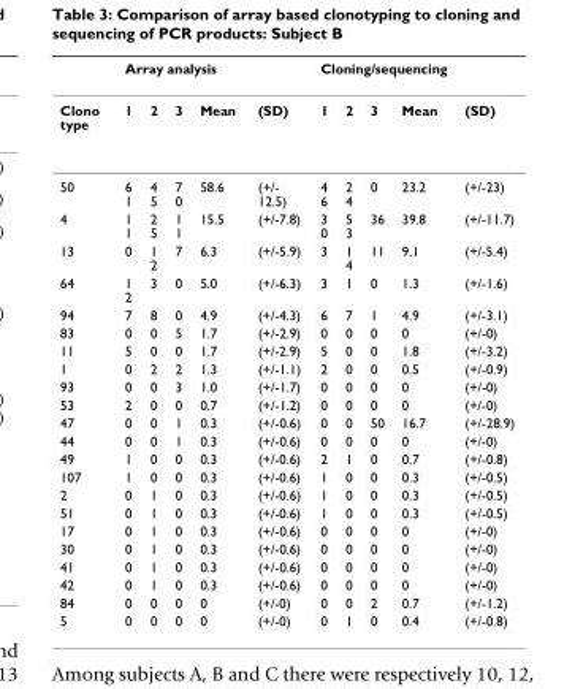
<table><thead><tr><td rowspan="2">Clono type</td><td colspan="5">Array analysis</td><td colspan="5">Cloning/sequencing</td></tr><tr><td>1</td><td>2</td><td>3</td><td>Mean</td><td>(SD)</td><td>1</td><td>2</td><td>3</td><td>Mean</td><td>(SD)</td></tr></thead><tbody><tr><td>50</td><td>6 1</td><td>4 5</td><td>7 0</td><td>58.6</td><td>(+/- 12.5)</td><td>4 6</td><td>2 4</td><td>0</td><td>23.2</td><td>(+/-23)</td></tr><tr><td>4</td><td>1 1</td><td>2 5</td><td>1 1</td><td>15.5</td><td>(+/-7.8)</td><td>3 0</td><td>5 3</td><td>36</td><td>39.8</td><td>(+/-11.7)</td></tr><tr><td>13</td><td>0</td><td>1 2</td><td>7</td><td>6.3</td><td>(+/-5.9)</td><td>3</td><td>1 4</td><td>11</td><td>9.1</td><td>(+/-5.4)</td></tr><tr><td>64</td><td>1 2</td><td>3</td><td>0</td><td>5.0</td><td>(+/-6.3)</td><td>3</td><td>1</td><td>0</td><td>1.3</td><td>(+/-1.6)</td></tr><tr><td>94</td><td>7</td><td>8</td><td>0</td><td>4.9</td><td>(+/-4.3)</td><td>6</td><td>7</td><td>1</td><td>4.9</td><td>(+/-3.1)</td></tr><tr><td>83</td><td>0</td><td>0</td><td>5</td><td>1.7</td><td>(+/-2.9)</td><td>0</td><td>0</td><td>0</td><td>0</td><td>(+/-0)</td></tr><tr><td>11</td><td>5</td><td>0</td><td>0</td><td>1.7</td><td>(+/-2.9)</td><td>5</td><td>0</td><td>0</td><td>1.8</td><td>(+/-3.2)</td></tr><tr><td>1</td><td>0</td><td>2</td><td>2</td><td>1.3</td><td>(+/-1.1)</td><td>2</td><td>0</td><td>0</td><td>0.5</td><td>(+/-0.9)</td></tr><tr><td>93</td><td>0</td><td>0</td><td>3</td><td>1.0</td><td>(+/-1.7)</td><td>0</td><td>0</td><td>0</td><td>0</td><td>(+/-0)</td></tr><tr><td>53</td><td>2</td><td>0</td><td>0</td><td>0.7</td><td>(+/-1.2)</td><td>0</td><td>0</td><td>0</td><td>0</td><td>(+/-0)</td></tr><tr><td>47</td><td>0</td><td>0</td><td>1</td><td>0.3</td><td>(+/-0.6)</td><td>0</td><td>0</td><td>50</td><td>16.7</td><td>(+/-28.9)</td></tr><tr><td>44</td><td>0</td><td>0</td><td>1</td><td>0.3</td><td>(+/-0.6)</td><td>0</td><td>0</td><td>0</td><td>0</td><td>(+/-0)</td></tr><tr><td>49</td><td>1</td><td>0</td><td>0</td><td>0.3</td><td>(+/-0.6)</td><td>2</td><td>1</td><td>0</td><td>0.7</td><td>(+/-0.8)</td></tr><tr><td>107</td><td>1</td><td>0</td><td>0</td><td>0.3</td><td>(+/-0.6)</td><td>1</td><td>0</td><td>0</td><td>0.3</td><td>(+/-0.5)</td></tr><tr><td>2</td><td>0</td><td>1</td><td>0</td><td>0.3</td><td>(+/-0.6)</td><td>1</td><td>0</td><td>0</td><td>0.3</td><td>(+/-0.5)</td></tr><tr><td>51</td><td>0</td><td>1</td><td>0</td><td>0.3</td><td>(+/-0.6)</td><td>1</td><td>0</td><td>0</td><td>0.3</td><td>(+/-0.5)</td></tr><tr><td>17</td><td>0</td><td>1</td><td>0</td><td>0.3</td><td>(+/-0.6)</td><td>0</td><td>0</td><td>0</td><td>0</td><td>(+/-0)</td></tr><tr><td>30</td><td>0</td><td>1</td><td>0</td><td>0.3</td><td>(+/-0.6)</td><td>0</td><td>0</td><td>0</td><td>0</td><td>(+/-0)</td></tr><tr><td>41</td><td>0</td><td>1</td><td>0</td><td>0.3</td><td>(+/-0.6)</td><td>0</td><td>0</td><td>0</td><td>0</td><td>(+/-0)</td></tr><tr><td>42</td><td>0</td><td>1</td><td>0</td><td>0.3</td><td>(+/-0.6)</td><td>0</td><td>0</td><td>0</td><td>0</td><td>(+/-0)</td></tr><tr><td>84</td><td>0</td><td>0</td><td>0</td><td>0</td><td>(+/-0)</td><td>0</td><td>0</td><td>2</td><td>0.7</td><td>(+/-1.2)</td></tr><tr><td>5</td><td>0</td><td>0</td><td>0</td><td>0</td><td>(+/-0)</td><td>0</td><td>1</td><td>0</td><td>0.4</td><td>(+/-0.8)</td></tr></tbody></table>